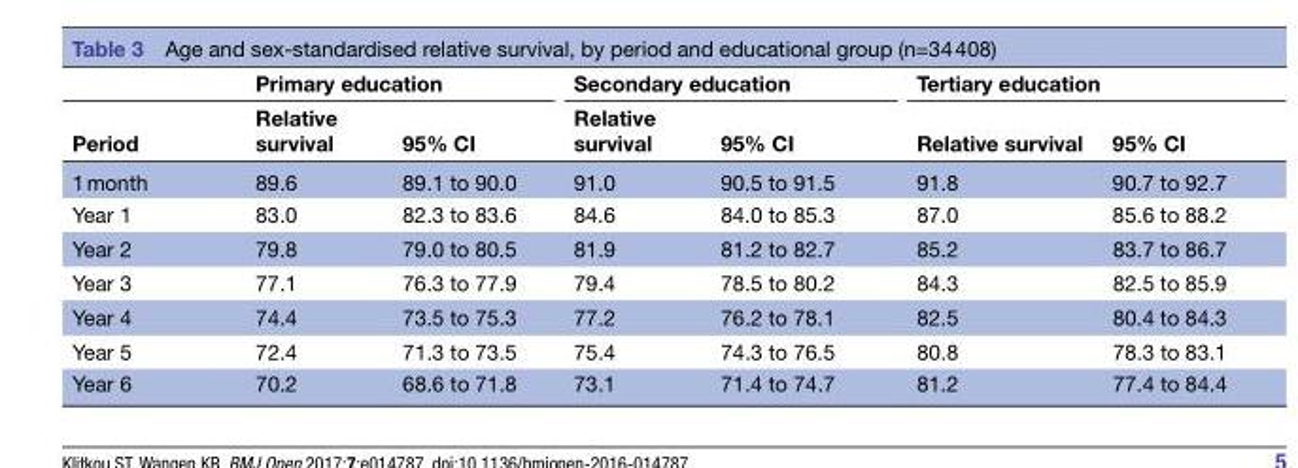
<table><thead><tr><td rowspan="2">Period</td><td colspan="2">Primary education</td><td colspan="2">Secondary education</td><td colspan="2">Tertiary education</td></tr><tr><td>Relative survival</td><td>95% CI</td><td>Relative survival</td><td>95% CI</td><td>Relative survival</td><td>95% CI</td></tr></thead><tbody><tr><td>1 month</td><td>89.6</td><td>89.1 to 90.0</td><td>91.0</td><td>90.5 to 91.5</td><td>91.8</td><td>90.7 to 92.7</td></tr><tr><td>Year 1</td><td>83.0</td><td>82.3 to 83.6</td><td>84.6</td><td>84.0 to 85.3</td><td>87.0</td><td>85.6 to 88.2</td></tr><tr><td>Year 2</td><td>79.8</td><td>79.0 to 80.5</td><td>81.9</td><td>81.2 to 82.7</td><td>85.2</td><td>83.7 to 86.7</td></tr><tr><td>Year 3</td><td>77.1</td><td>76.3 to 77.9</td><td>79.4</td><td>78.5 to 80.2</td><td>84.3</td><td>82.5 to 85.9</td></tr><tr><td>Year 4</td><td>74.4</td><td>73.5 to 75.3</td><td>77.2</td><td>76.2 to 78.1</td><td>82.5</td><td>80.4 to 84.3</td></tr><tr><td>Year 5</td><td>72.4</td><td>71.3 to 73.5</td><td>75.4</td><td>74.3 to 76.5</td><td>80.8</td><td>78.3 to 83.1</td></tr><tr><td>Year 6</td><td>70.2</td><td>68.6 to 71.8</td><td>73.1</td><td>71.4 to 74.7</td><td>81.2</td><td>77.4 to 84.4</td></tr></tbody></table>